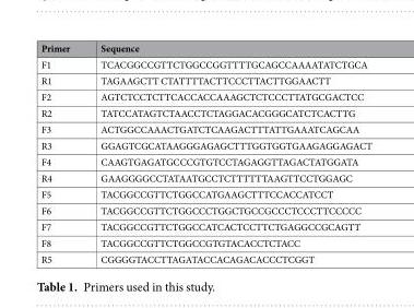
<table><thead><tr><td>Primer</td><td>Sequence</td></tr></thead><tbody><tr><td>F1</td><td>TCACGGCCGTTCTGGCCGGTTTTGCAGCCAAAATATCTGCA</td></tr><tr><td>R1</td><td>TAGAAGCTT CTATTTTACTTCCCTTACTTGGAACTT</td></tr><tr><td>F2</td><td>AGTCTCCTCTTCACCACCAAAGCTCTCCCTTATGCGACTCC</td></tr><tr><td>R2</td><td>TATCCATAGTCTAACCTCTAGGACACGGGCATCTCACTTG</td></tr><tr><td>F3</td><td>ACTGGCCAAACTGATCTCAAGACTTTATTGAAATCAGCAA</td></tr><tr><td>R3</td><td>GGAGTCGCATAAGGGAGAGCTTTGGTGGTGAAGAGGAGACT</td></tr><tr><td>F4</td><td>CAAGTGAGATGCCCGTGTCCTAGAGGTTAGACTATGGATA</td></tr><tr><td>R4</td><td>GAAGGGGCCTATAATGCCTCTTTTTTAAGTTCCTGGAGC</td></tr><tr><td>F5</td><td>TACGGCCGTTCTGGCCATGAAGCTTTCCACCATCCT</td></tr><tr><td>F6</td><td>TACGGCCGTTCTGGCCCTGGCTGCCGCCCTCCCTTCCCCC</td></tr><tr><td>F7</td><td>TACGGCCGTTCTGGCCATCACTCCTTCTGAGGCCGCAGTT</td></tr><tr><td>F8</td><td>TACGGCCGTTCTGGCCGTGTACACCTCTACC</td></tr><tr><td>R5</td><td>CGGGGTACCTTAGATACCACAGACACCCTCGGT</td></tr></tbody></table>